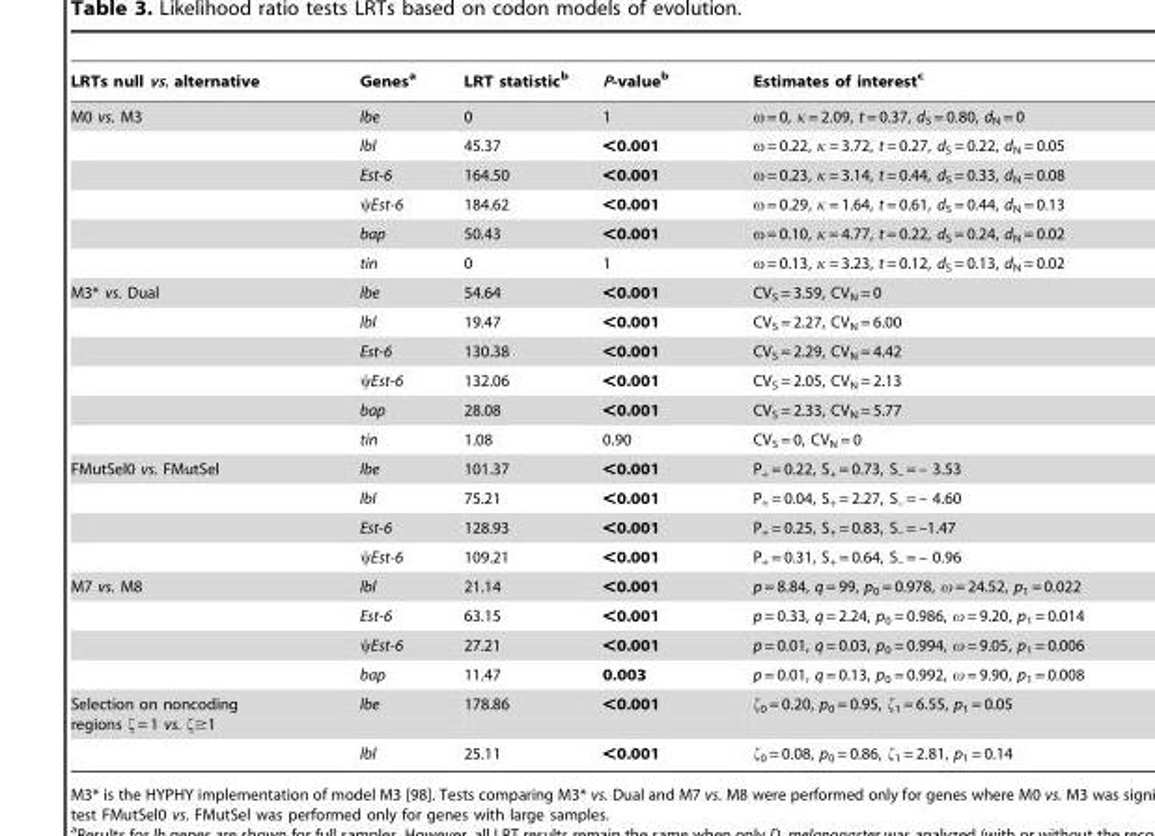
<table><thead><tr><td>LRTs null vs. alternative</td><td>Genes<sup>a</sup></td><td>LRT statistic<sup>b</sup></td><td>P-value<sup>b</sup></td><td>Estimates of interest<sup>c</sup></td></tr></thead><tbody><tr><td rowspan="6">M0 vs. M3</td><td>lbe</td><td>0</td><td>1</td><td>ω = 0, κ = 2.09, t = 0.37, d<sub>S</sub> = 0.80, d<sub>N</sub> = 0</td></tr><tr><td>lbl</td><td>45.37</td><td>&lt;0.001</td><td>ω = 0.22, κ = 3.72, t = 0.27, d<sub>S</sub> = 0.22, d<sub>N</sub> = 0.05</td></tr><tr><td>Est-6</td><td>164.50</td><td>&lt;0.001</td><td>ω = 0.23, κ = 3.14, t = 0.44, d<sub>S</sub> = 0.33, d<sub>N</sub> = 0.08</td></tr><tr><td>ψEst-6</td><td>184.62</td><td>&lt;0.001</td><td>ω = 0.29, κ = 1.64, t = 0.61, d<sub>S</sub> = 0.44, d<sub>N</sub> = 0.13</td></tr><tr><td>bap</td><td>50.43</td><td>&lt;0.001</td><td>ω = 0.10, κ = 4.77, t = 0.22, d<sub>S</sub> = 0.24, d<sub>N</sub> = 0.02</td></tr><tr><td>tin</td><td>0</td><td>1</td><td>ω = 0.13, κ = 3.23, t = 0.12, d<sub>S</sub> = 0.13, d<sub>N</sub> = 0.02</td></tr><tr><td rowspan="6">M3* vs. Dual</td><td>lbe</td><td>54.64</td><td>&lt;0.001</td><td>CV<sub>S</sub> = 3.59, CV<sub>N</sub> = 0</td></tr><tr><td>lbl</td><td>19.47</td><td>&lt;0.001</td><td>CV<sub>S</sub> = 2.27, CV<sub>N</sub> = 6.00</td></tr><tr><td>Est-6</td><td>130.38</td><td>&lt;0.001</td><td>CV<sub>S</sub> = 2.29, CV<sub>N</sub> = 4.42</td></tr><tr><td>ψEst-6</td><td>132.06</td><td>&lt;0.001</td><td>CV<sub>S</sub> = 2.05, CV<sub>N</sub> = 2.13</td></tr><tr><td>bap</td><td>28.08</td><td>&lt;0.001</td><td>CV<sub>S</sub> = 2.33, CV<sub>N</sub> = 5.77</td></tr><tr><td>tin</td><td>1.08</td><td>0.90</td><td>CV<sub>S</sub> = 0, CV<sub>N</sub> = 0</td></tr><tr><td rowspan="4">FMutSel0 vs. FMutSel</td><td>lbe</td><td>101.37</td><td>&lt;0.001</td><td>P<sub>+</sub> = 0.22, S<sub>+</sub> = 0.73, S<sub>–</sub> = – 3.53</td></tr><tr><td>lbl</td><td>75.21</td><td>&lt;0.001</td><td>P<sub>+</sub> = 0.04, S<sub>+</sub> = 2.27, S<sub>–</sub> = – 4.60</td></tr><tr><td>Est-6</td><td>128.93</td><td>&lt;0.001</td><td>P<sub>+</sub> = 0.25, S<sub>+</sub> = 0.83, S<sub>–</sub> = –1.47</td></tr><tr><td>ψEst-6</td><td>109.21</td><td>&lt;0.001</td><td>P<sub>+</sub> = 0.31, S<sub>+</sub> = 0.64, S<sub>–</sub> = – 0.96</td></tr><tr><td rowspan="4">M7 vs. M8</td><td>lbl</td><td>21.14</td><td>&lt;0.001</td><td>p = 8.84, q = 99, p<sub>0</sub> = 0.978, ω = 24.52, p<sub>1</sub> = 0.022</td></tr><tr><td>Est-6</td><td>63.15</td><td>&lt;0.001</td><td>p = 0.33, q = 2.24, p<sub>0</sub> = 0.986, ω = 9.20, p<sub>1</sub> = 0.014</td></tr><tr><td>ψEst-6</td><td>27.21</td><td>&lt;0.001</td><td>p = 0.01, q = 0.03, p<sub>0</sub> = 0.994, ω = 9.05, p<sub>1</sub> = 0.006</td></tr><tr><td>bap</td><td>11.47</td><td>0.003</td><td>p = 0.01, q = 0.13, p<sub>0</sub> = 0.992, ω = 9.90, p<sub>1</sub> = 0.008</td></tr><tr><td rowspan="2">Selection on noncoding regions ζ = 1 vs. ζ≥1</td><td>lbe</td><td>178.86</td><td>&lt;0.001</td><td>ζ<sub>0</sub> = 0.20, p<sub>0</sub> = 0.95, ζ<sub>1</sub> = 6.55, p<sub>1</sub> = 0.05</td></tr><tr><td>lbl</td><td>25.11</td><td>&lt;0.001</td><td>ζ<sub>0</sub> = 0.08, p<sub>0</sub> = 0.86, ζ<sub>1</sub> = 2.81, p<sub>1</sub> = 0.14</td></tr></tbody></table>